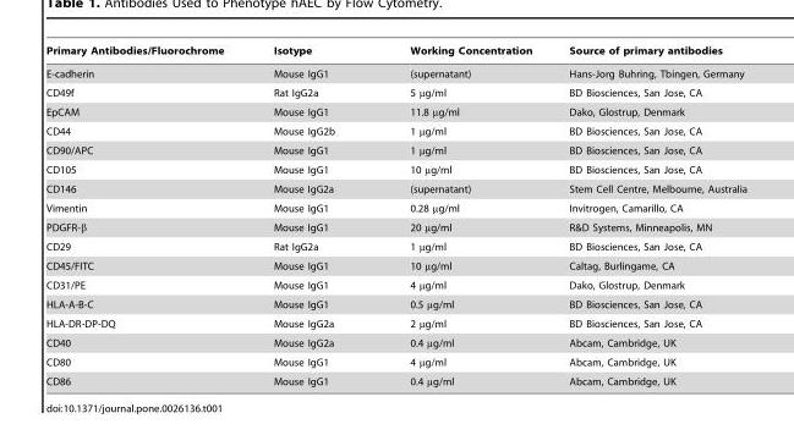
<table><thead><tr><td>Primary Antibodies/Fluorochrome</td><td>Isotype</td><td>Working Concentration</td><td>Source of primary antibodies</td></tr></thead><tbody><tr><td>E-cadherin</td><td>Mouse IgG1</td><td>(supernatant)</td><td>Hans-Jorg Buhring, Tbingen, Germany</td></tr><tr><td>CD49f</td><td>Rat IgG2a</td><td>5 µg/ml</td><td>BD Biosciences, San Jose, CA</td></tr><tr><td>EpCAM</td><td>Mouse IgG1</td><td>11.8 µg/ml</td><td>Dako, Glostrup, Denmark</td></tr><tr><td>CD44</td><td>Mouse IgG2b</td><td>1 µg/ml</td><td>BD Biosciences, San Jose, CA</td></tr><tr><td>CD90/APC</td><td>Mouse IgG1</td><td>1 µg/ml</td><td>BD Biosciences, San Jose, CA</td></tr><tr><td>CD105</td><td>Mouse IgG1</td><td>10 µg/ml</td><td>BD Biosciences, San Jose, CA</td></tr><tr><td>CD146</td><td>Mouse IgG2a</td><td>(supernatant)</td><td>Stem Cell Centre, Melbourne, Australia</td></tr><tr><td>Vimentin</td><td>Mouse IgG1</td><td>0.28 µg/ml</td><td>Invitrogen, Camarillo, CA</td></tr><tr><td>PDGFR-β</td><td>Mouse IgG1</td><td>20 µg/ml</td><td>R&amp;D Systems, Minneapolis, MN</td></tr><tr><td>CD29</td><td>Rat IgG2a</td><td>1 µg/ml</td><td>BD Biosciences, San Jose, CA</td></tr><tr><td>CD45/FITC</td><td>Mouse IgG1</td><td>10 µg/ml</td><td>Caltag, Burlingame, CA</td></tr><tr><td>CD31/PE</td><td>Mouse IgG1</td><td>4 µg/ml</td><td>Dako, Glostrup, Denmark</td></tr><tr><td>HLA-A-B-C</td><td>Mouse IgG1</td><td>0.5 µg/ml</td><td>BD Biosciences, San Jose, CA</td></tr><tr><td>HLA-DR-DP-DQ</td><td>Mouse IgG2a</td><td>2 µg/ml</td><td>BD Biosciences, San Jose, CA</td></tr><tr><td>CD40</td><td>Mouse IgG2a</td><td>0.4 µg/ml</td><td>Abcam, Cambridge, UK</td></tr><tr><td>CD80</td><td>Mouse IgG1</td><td>4 µg/ml</td><td>Abcam, Cambridge, UK</td></tr><tr><td>CD86</td><td>Mouse IgG1</td><td>0.4 µg/ml</td><td>Abcam, Cambridge, UK</td></tr></tbody></table>